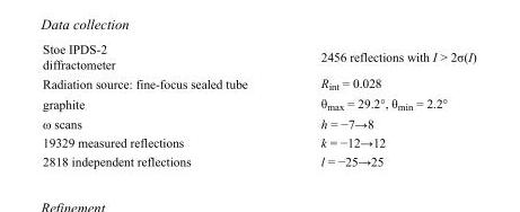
<table><tbody><tr><td>Stoe IPDS-2 diffractometer</td><td>2456 reflections with I &gt; 2σ(I)</td></tr><tr><td>Radiation source: fine-focus sealed tube</td><td>R<sub>int</sub> = 0.028</td></tr><tr><td>graphite</td><td>θ<sub>max</sub> = 29.2°, θ<sub>min</sub> = 2.2°</td></tr><tr><td>ω scans</td><td>h = −7→8</td></tr><tr><td>19329 measured reflections</td><td>k = −12→12</td></tr><tr><td>2818 independent reflections</td><td>l = −25→25</td></tr></tbody></table>